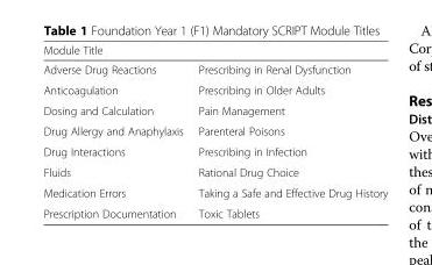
<table><thead><tr><td colspan="2">Module Title</td></tr><tr><td>Adverse Drug Reactions</td><td>Prescribing in Renal Dysfunction</td></tr></thead><tbody><tr><td>Anticoagulation</td><td>Prescribing in Older Adults</td></tr><tr><td>Dosing and Calculation</td><td>Pain Management</td></tr><tr><td>Drug Allergy and Anaphylaxis</td><td>Parenteral Poisons</td></tr><tr><td>Drug Interactions</td><td>Prescribing in Infection</td></tr><tr><td>Fluids</td><td>Rational Drug Choice</td></tr><tr><td>Medication Errors</td><td>Taking a Safe and Effective Drug History</td></tr><tr><td>Prescription Documentation</td><td>Toxic Tablets</td></tr></tbody></table>